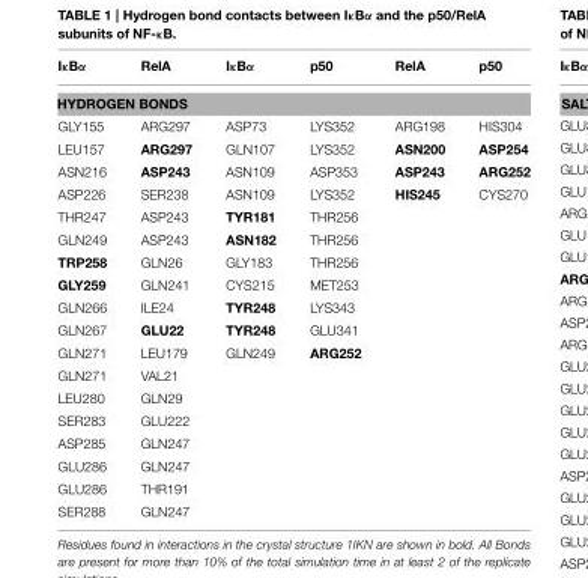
<table><thead><tr><td>IκBα</td><td>RelA</td><td>IκBα</td><td>p50</td><td>RelA</td><td>p50</td></tr></thead><tbody><tr><td colspan="6">HYDROGEN BONDS</td></tr><tr><td>GLY155</td><td>ARG297</td><td>ASP73</td><td>LYS352</td><td>ARG198</td><td>HIS304</td></tr><tr><td>LEU157</td><td>ARG297</td><td>GLN107</td><td>LYS352</td><td>ASN200</td><td>ASP254</td></tr><tr><td>ASN216</td><td>ASP243</td><td>ASN109</td><td>ASP353</td><td>ASP243</td><td>ARG252</td></tr><tr><td>ASP226</td><td>SER238</td><td>ASN109</td><td>LYS352</td><td>HIS245</td><td>CYS270</td></tr><tr><td>THR247</td><td>ASP243</td><td>TYR181</td><td>THR256</td><td></td><td></td></tr><tr><td>GLN249</td><td>ASP243</td><td>ASN182</td><td>THR256</td><td></td><td></td></tr><tr><td>TRP258</td><td>GLN26</td><td>GLY183</td><td>THR256</td><td></td><td></td></tr><tr><td>GLY259</td><td>GLN241</td><td>CYS215</td><td>MET253</td><td></td><td></td></tr><tr><td>GLN266</td><td>ILE24</td><td>TYR248</td><td>LYS343</td><td></td><td></td></tr><tr><td>GLN267</td><td>GLU22</td><td>TYR248</td><td>GLU341</td><td></td><td></td></tr><tr><td>GLN271</td><td>LEU179</td><td>GLN249</td><td>ARG252</td><td></td><td></td></tr><tr><td>GLN271</td><td>VAL21</td><td></td><td></td><td></td><td></td></tr><tr><td>LEU280</td><td>GLN29</td><td></td><td></td><td></td><td></td></tr><tr><td>SER283</td><td>GLU222</td><td></td><td></td><td></td><td></td></tr><tr><td>ASP285</td><td>GLN247</td><td></td><td></td><td></td><td></td></tr><tr><td>GLU286</td><td>GLN247</td><td></td><td></td><td></td><td></td></tr><tr><td>GLU286</td><td>THR191</td><td></td><td></td><td></td><td></td></tr><tr><td>SER288</td><td>GLN247</td><td></td><td></td><td></td><td></td></tr></tbody></table>